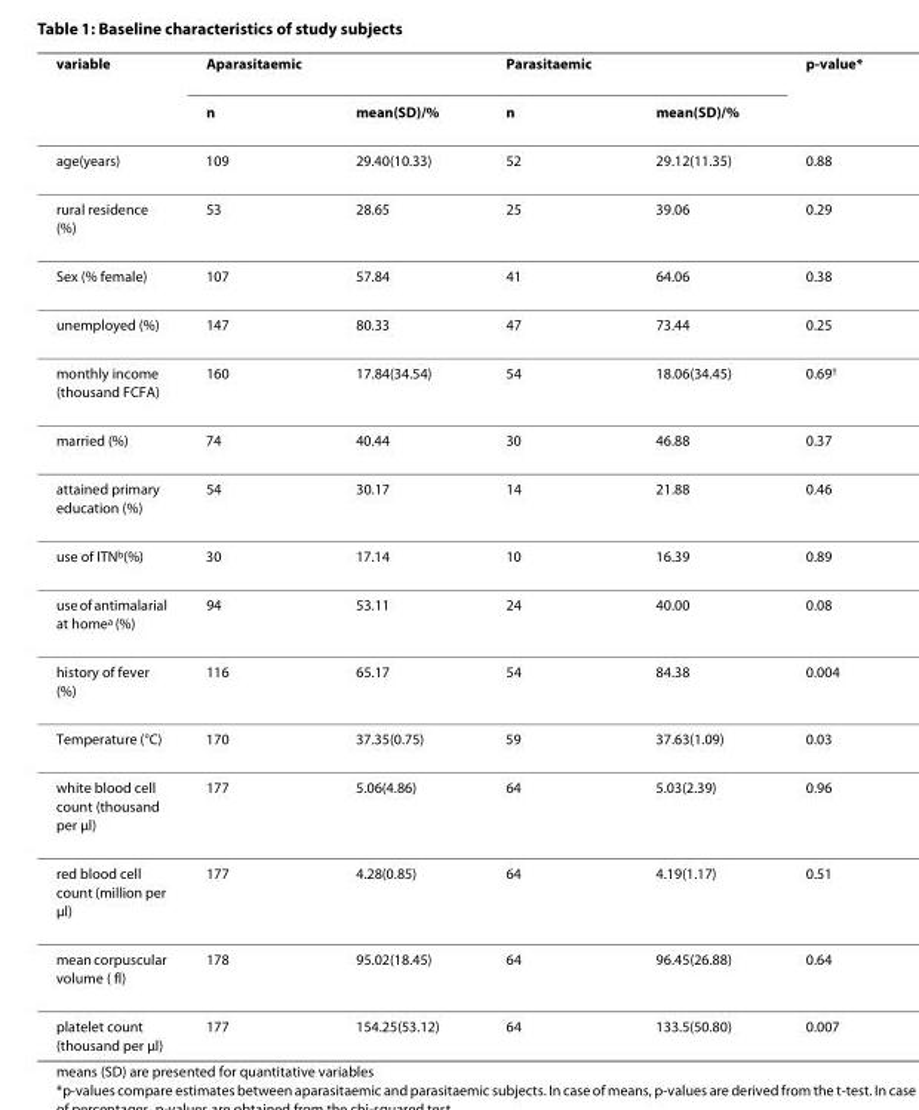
<table><thead><tr><td rowspan="2">variable</td><td colspan="2">Aparasitaemic</td><td colspan="2">Parasitaemic</td><td rowspan="2">p-value*</td></tr><tr><td>n</td><td>mean(SD)/%</td><td>n</td><td>mean(SD)/%</td></tr></thead><tbody><tr><td>age(years)</td><td>109</td><td>29.40(10.33)</td><td>52</td><td>29.12(11.35)</td><td>0.88</td></tr><tr><td>rural residence (%)</td><td>53</td><td>28.65</td><td>25</td><td>39.06</td><td>0.29</td></tr><tr><td>Sex (% female)</td><td>107</td><td>57.84</td><td>41</td><td>64.06</td><td>0.38</td></tr><tr><td>unemployed (%)</td><td>147</td><td>80.33</td><td>47</td><td>73.44</td><td>0.25</td></tr><tr><td>monthly income (thousand FCFA)</td><td>160</td><td>17.84(34.54)</td><td>54</td><td>18.06(34.45)</td><td>0.69<sup>†</sup></td></tr><tr><td>married (%)</td><td>74</td><td>40.44</td><td>30</td><td>46.88</td><td>0.37</td></tr><tr><td>attained primary education (%)</td><td>54</td><td>30.17</td><td>14</td><td>21.88</td><td>0.46</td></tr><tr><td>use of ITN<sup>b</sup>(%)</td><td>30</td><td>17.14</td><td>10</td><td>16.39</td><td>0.89</td></tr><tr><td>use of antimalarial at home<sup>a</sup> (%)</td><td>94</td><td>53.11</td><td>24</td><td>40.00</td><td>0.08</td></tr><tr><td>history of fever (%)</td><td>116</td><td>65.17</td><td>54</td><td>84.38</td><td>0.004</td></tr><tr><td>Temperature (°C)</td><td>170</td><td>37.35(0.75)</td><td>59</td><td>37.63(1.09)</td><td>0.03</td></tr><tr><td>white blood cell count (thousand per μl)</td><td>177</td><td>5.06(4.86)</td><td>64</td><td>5.03(2.39)</td><td>0.96</td></tr><tr><td>red blood cell count (million per μl)</td><td>177</td><td>4.28(0.85)</td><td>64</td><td>4.19(1.17)</td><td>0.51</td></tr><tr><td>mean corpuscular volume ( fl)</td><td>178</td><td>95.02(18.45)</td><td>64</td><td>96.45(26.88)</td><td>0.64</td></tr><tr><td>platelet count (thousand per μl)</td><td>177</td><td>154.25(53.12)</td><td>64</td><td>133.5(50.80)</td><td>0.007</td></tr></tbody></table>